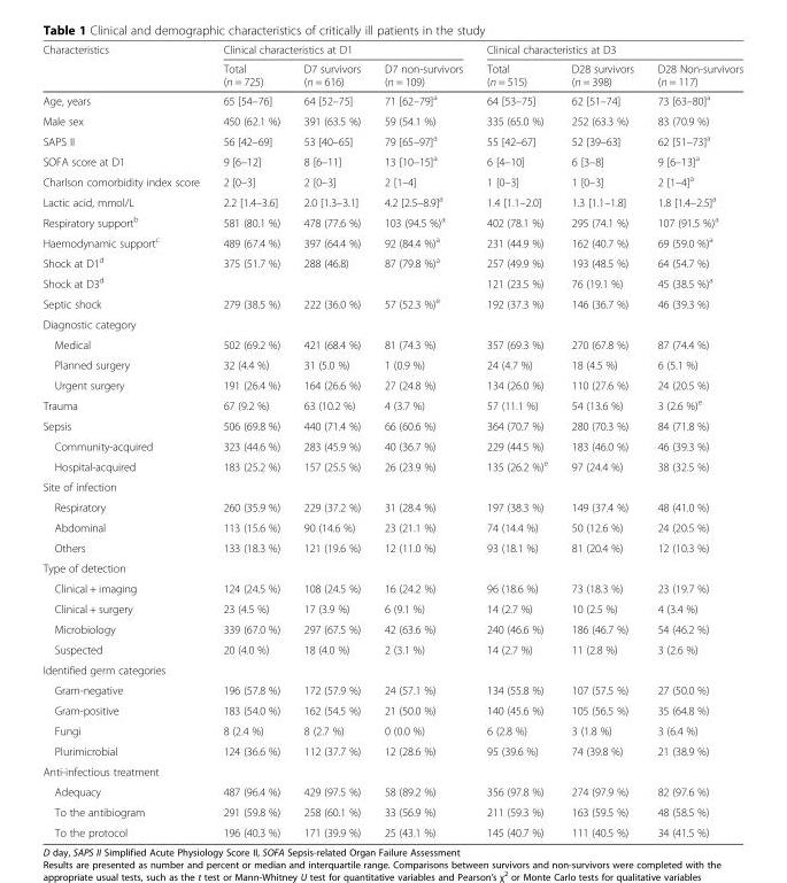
<table><thead><tr><td rowspan="2">Characteristics</td><td colspan="3">Clinical characteristics at D1</td><td colspan="3">Clinical characteristics at D3</td></tr><tr><td>Total (n = 725)</td><td>D7 survivors (n = 616)</td><td>D7 non-survivors (n = 109)</td><td>Total (n = 515)</td><td>D28 survivors (n = 398)</td><td>D28 Non-survivors (n = 117)</td></tr></thead><tbody><tr><td>Age, years</td><td>65 [54–76]</td><td>64 [52–75]</td><td>71 [62–79]<sup>a</sup></td><td>64 [53–75]</td><td>62 [51–74]</td><td>73 [63–80]<sup>a</sup></td></tr><tr><td>Male sex</td><td>450 (62.1 %)</td><td>391 (63.5 %)</td><td>59 (54.1 %)</td><td>335 (65.0 %)</td><td>252 (63.3 %)</td><td>83 (70.9 %)</td></tr><tr><td>SAPS II</td><td>56 [42–69]</td><td>53 [40–65]</td><td>79 [65–97]<sup>a</sup></td><td>55 [42–67]</td><td>52 [39–63]</td><td>62 [51–73]<sup>a</sup></td></tr><tr><td>SOFA score at D1</td><td>9 [6–12]</td><td>8 [6–11]</td><td>13 [10–15]<sup>a</sup></td><td>6 [4–10]</td><td>6 [3–8]</td><td>9 [6–13]<sup>a</sup></td></tr><tr><td>Charlson comorbidity index score</td><td>2 [0–3]</td><td>2 [0–3]</td><td>2 [1–4]</td><td>1 [0–3]</td><td>1 [0–3]</td><td>2 [1–4]<sup>a</sup></td></tr><tr><td>Lactic acid, mmol/L</td><td>2.2 [1.4–3.6]</td><td>2.0 [1.3–3.1]</td><td>4.2 [2.5–8.9]<sup>a</sup></td><td>1.4 [1.1–2.0]</td><td>1.3 [1.1–1.8]</td><td>1.8 [1.4–2.5]<sup>a</sup></td></tr><tr><td>Respiratory support<sup>b</sup></td><td>581 (80.1 %)</td><td>478 (77.6 %)</td><td>103 (94.5 %)<sup>a</sup></td><td>402 (78.1 %)</td><td>295 (74.1 %)</td><td>107 (91.5 %)<sup>a</sup></td></tr><tr><td>Haemodynamic support<sup>c</sup></td><td>489 (67.4 %)</td><td>397 (64.4 %)</td><td>92 (84.4 %)<sup>a</sup></td><td>231 (44.9 %)</td><td>162 (40.7 %)</td><td>69 (59.0 %)<sup>a</sup></td></tr><tr><td>Shock at D1<sup>d</sup></td><td>375 (51.7 %)</td><td>288 (46.8)</td><td>87 (79.8 %)<sup>a</sup></td><td>257 (49.9 %)</td><td>193 (48.5 %)</td><td>64 (54.7 %)</td></tr><tr><td>Shock at D3<sup>d</sup></td><td></td><td></td><td></td><td>121 (23.5 %)</td><td>76 (19.1 %)</td><td>45 (38.5 %)<sup>a</sup></td></tr><tr><td>Septic shock</td><td>279 (38.5 %)</td><td>222 (36.0 %)</td><td>57 (52.3 %)<sup>e</sup></td><td>192 (37.3 %)</td><td>146 (36.7 %)</td><td>46 (39.3 %)</td></tr><tr><td colspan="7">Diagnostic category</td></tr><tr><td>Medical</td><td>502 (69.2 %)</td><td>421 (68.4 %)</td><td>81 (74.3 %)</td><td>357 (69.3 %)</td><td>270 (67.8 %)</td><td>87 (74.4 %)</td></tr><tr><td>Planned surgery</td><td>32 (4.4 %)</td><td>31 (5.0 %)</td><td>1 (0.9 %)</td><td>24 (4.7 %)</td><td>18 (4.5 %)</td><td>6 (5.1 %)</td></tr><tr><td>Urgent surgery</td><td>191 (26.4 %)</td><td>164 (26.6 %)</td><td>27 (24.8 %)</td><td>134 (26.0 %)</td><td>110 (27.6 %)</td><td>24 (20.5 %)</td></tr><tr><td>Trauma</td><td>67 (9.2 %)</td><td>63 (10.2 %)</td><td>4 (3.7 %)</td><td>57 (11.1 %)</td><td>54 (13.6 %)</td><td>3 (2.6 %)<sup>e</sup></td></tr><tr><td>Sepsis</td><td>506 (69.8 %)</td><td>440 (71.4 %)</td><td>66 (60.6 %)</td><td>364 (70.7 %)</td><td>280 (70.3 %)</td><td>84 (71.8 %)</td></tr><tr><td>Community-acquired</td><td>323 (44.6 %)</td><td>283 (45.9 %)</td><td>40 (36.7 %)</td><td>229 (44.5 %)</td><td>183 (46.0 %)</td><td>46 (39.3 %)</td></tr><tr><td>Hospital-acquired</td><td>183 (25.2 %)</td><td>157 (25.5 %)</td><td>26 (23.9 %)</td><td>135 (26.2 %)<sup>e</sup></td><td>97 (24.4 %)</td><td>38 (32.5 %)</td></tr><tr><td colspan="7">Site of infection</td></tr><tr><td>Respiratory</td><td>260 (35.9 %)</td><td>229 (37.2 %)</td><td>31 (28.4 %)</td><td>197 (38.3 %)</td><td>149 (37.4 %)</td><td>48 (41.0 %)</td></tr><tr><td>Abdominal</td><td>113 (15.6 %)</td><td>90 (14.6 %)</td><td>23 (21.1 %)</td><td>74 (14.4 %)</td><td>50 (12.6 %)</td><td>24 (20.5 %)</td></tr><tr><td>Others</td><td>133 (18.3 %)</td><td>121 (19.6 %)</td><td>12 (11.0 %)</td><td>93 (18.1 %)</td><td>81 (20.4 %)</td><td>12 (10.3 %)</td></tr><tr><td colspan="7">Type of detection</td></tr><tr><td>Clinical + imaging</td><td>124 (24.5 %)</td><td>108 (24.5 %)</td><td>16 (24.2 %)</td><td>96 (18.6 %)</td><td>73 (18.3 %)</td><td>23 (19.7 %)</td></tr><tr><td>Clinical + surgery</td><td>23 (4.5 %)</td><td>17 (3.9 %)</td><td>6 (9.1 %)</td><td>14 (2.7 %)</td><td>10 (2.5 %)</td><td>4 (3.4 %)</td></tr><tr><td>Microbiology</td><td>339 (67.0 %)</td><td>297 (67.5 %)</td><td>42 (63.6 %)</td><td>240 (46.6 %)</td><td>186 (46.7 %)</td><td>54 (46.2 %)</td></tr><tr><td>Suspected</td><td>20 (4.0 %)</td><td>18 (4.0 %)</td><td>2 (3.1 %)</td><td>14 (2.7 %)</td><td>11 (2.8 %)</td><td>3 (2.6 %)</td></tr><tr><td colspan="7">Identified germ categories</td></tr><tr><td>Gram-negative</td><td>196 (57.8 %)</td><td>172 (57.9 %)</td><td>24 (57.1 %)</td><td>134 (55.8 %)</td><td>107 (57.5 %)</td><td>27 (50.0 %)</td></tr><tr><td>Gram-positive</td><td>183 (54.0 %)</td><td>162 (54.5 %)</td><td>21 (50.0 %)</td><td>140 (45.6 %)</td><td>105 (56.5 %)</td><td>35 (64.8 %)</td></tr><tr><td>Fungi</td><td>8 (2.4 %)</td><td>8 (2.7 %)</td><td>0 (0.0 %)</td><td>6 (2.8 %)</td><td>3 (1.8 %)</td><td>3 (6.4 %)</td></tr><tr><td>Plurimicrobial</td><td>124 (36.6 %)</td><td>112 (37.7 %)</td><td>12 (28.6 %)</td><td>95 (39.6 %)</td><td>74 (39.8 %)</td><td>21 (38.9 %)</td></tr><tr><td colspan="7">Anti-infectious treatment</td></tr><tr><td>Adequacy</td><td>487 (96.4 %)</td><td>429 (97.5 %)</td><td>58 (89.2 %)</td><td>356 (97.8 %)</td><td>274 (97.9 %)</td><td>82 (97.6 %)</td></tr><tr><td>To the antibiogram</td><td>291 (59.8 %)</td><td>258 (60.1 %)</td><td>33 (56.9 %)</td><td>211 (59.3 %)</td><td>163 (59.5 %)</td><td>48 (58.5 %)</td></tr><tr><td>To the protocol</td><td>196 (40.3 %)</td><td>171 (39.9 %)</td><td>25 (43.1 %)</td><td>145 (40.7 %)</td><td>111 (40.5 %)</td><td>34 (41.5 %)</td></tr></tbody></table>